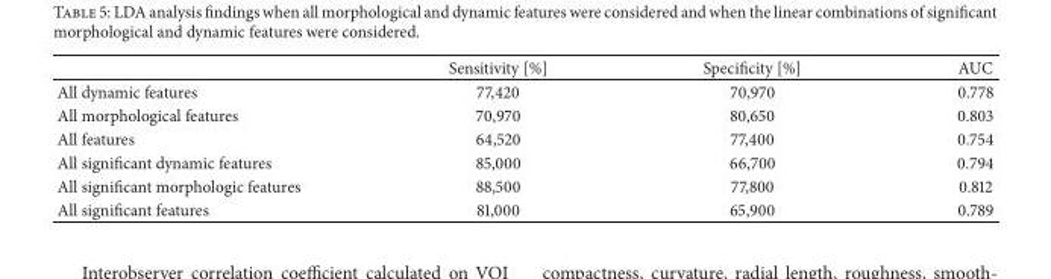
<table><thead><tr><td></td><td>Sensitivity [%]</td><td>Specificity [%]</td><td>AUC</td></tr></thead><tbody><tr><td>All dynamic features</td><td>77,420</td><td>70,970</td><td>0.778</td></tr><tr><td>All morphological features</td><td>70,970</td><td>80,650</td><td>0.803</td></tr><tr><td>All features</td><td>64,520</td><td>77,400</td><td>0.754</td></tr><tr><td>All significant dynamic features</td><td>85,000</td><td>66,700</td><td>0.794</td></tr><tr><td>All significant morphologic features</td><td>88,500</td><td>77,800</td><td>0.812</td></tr><tr><td>All significant features</td><td>81,000</td><td>65,900</td><td>0.789</td></tr></tbody></table>